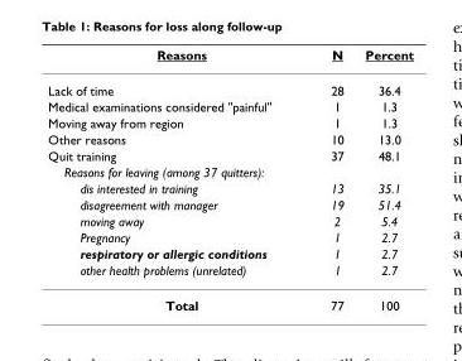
<table><thead><tr><td>Reasons</td><td>N</td><td>Percent</td></tr></thead><tbody><tr><td>Lack of time</td><td>28</td><td>36.4</td></tr><tr><td>Medical examinations considered &quot;painful&quot;</td><td>1</td><td>1.3</td></tr><tr><td>Moving away from region</td><td>1</td><td>1.3</td></tr><tr><td>Other reasons</td><td>10</td><td>13.0</td></tr><tr><td>Quit training</td><td>37</td><td>48.1</td></tr><tr><td colspan="3">Reasons for leaving (among 37 quitters):</td></tr><tr><td>dis interested in training</td><td>13</td><td>35.1</td></tr><tr><td>disagreement with manager</td><td>19</td><td>51.4</td></tr><tr><td>moving away</td><td>2</td><td>5.4</td></tr><tr><td>Pregnancy</td><td>1</td><td>2.7</td></tr><tr><td>respiratory or allergic conditions</td><td>1</td><td>2.7</td></tr><tr><td>other health problems (unrelated)</td><td>1</td><td>2.7</td></tr><tr><td>Total</td><td>77</td><td>100</td></tr></tbody></table>